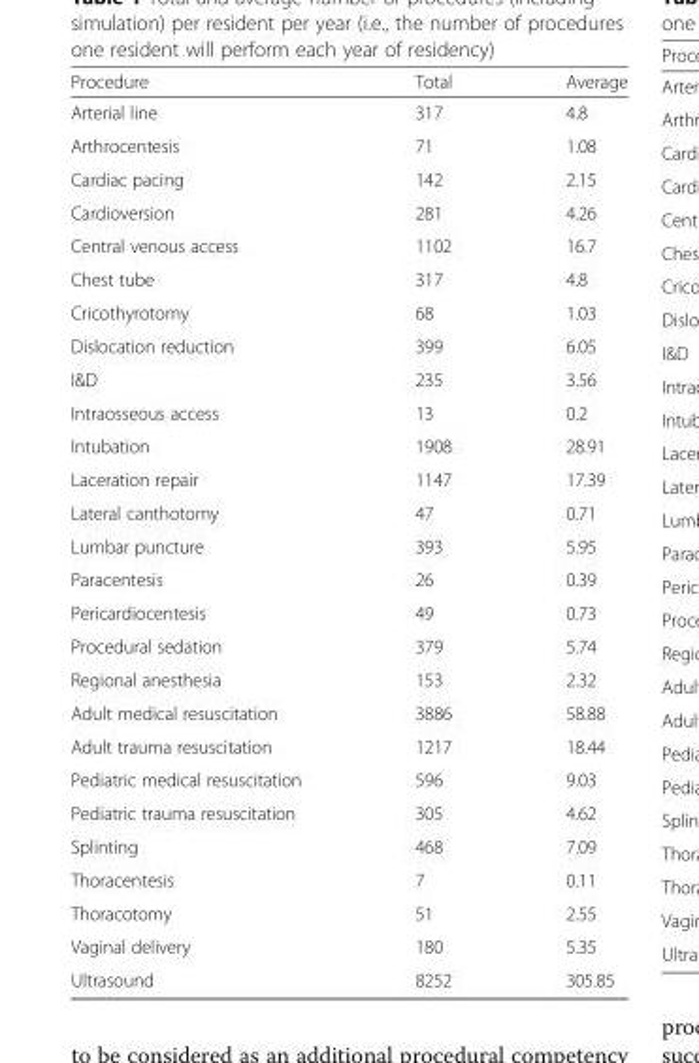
<table><thead><tr><td>Procedure</td><td>Total</td><td>Average</td></tr></thead><tbody><tr><td>Arterial line</td><td>317</td><td>4.8</td></tr><tr><td>Arthrocentesis</td><td>71</td><td>1.08</td></tr><tr><td>Cardiac pacing</td><td>142</td><td>2.15</td></tr><tr><td>Cardioversion</td><td>281</td><td>4.26</td></tr><tr><td>Central venous access</td><td>1102</td><td>16.7</td></tr><tr><td>Chest tube</td><td>317</td><td>4.8</td></tr><tr><td>Cricothyrotomy</td><td>68</td><td>1.03</td></tr><tr><td>Dislocation reduction</td><td>399</td><td>6.05</td></tr><tr><td>I&amp;D</td><td>235</td><td>3.56</td></tr><tr><td>Intraosseous access</td><td>13</td><td>0.2</td></tr><tr><td>Intubation</td><td>1908</td><td>28.91</td></tr><tr><td>Laceration repair</td><td>1147</td><td>17.39</td></tr><tr><td>Lateral canthotomy</td><td>47</td><td>0.71</td></tr><tr><td>Lumbar puncture</td><td>393</td><td>5.95</td></tr><tr><td>Paracentesis</td><td>26</td><td>0.39</td></tr><tr><td>Pericardiocentesis</td><td>49</td><td>0.73</td></tr><tr><td>Procedural sedation</td><td>379</td><td>5.74</td></tr><tr><td>Regional anesthesia</td><td>153</td><td>2.32</td></tr><tr><td>Adult medical resuscitation</td><td>3886</td><td>58.88</td></tr><tr><td>Adult trauma resuscitation</td><td>1217</td><td>18.44</td></tr><tr><td>Pediatric medical resuscitation</td><td>596</td><td>9.03</td></tr><tr><td>Pediatric trauma resuscitation</td><td>305</td><td>4.62</td></tr><tr><td>Splinting</td><td>468</td><td>7.09</td></tr><tr><td>Thoracentesis</td><td>7</td><td>0.11</td></tr><tr><td>Thoracotomy</td><td>51</td><td>2.55</td></tr><tr><td>Vaginal delivery</td><td>180</td><td>5.35</td></tr><tr><td>Ultrasound</td><td>8252</td><td>305.85</td></tr></tbody></table>